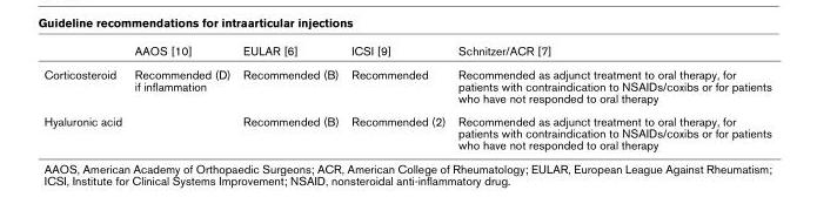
<table><thead><tr><td></td><td>AAOS [10]</td><td>EULAR [6]</td><td>ICSI [9]</td><td>Schnitzer/ACR [7]</td></tr></thead><tbody><tr><td>Corticosteroid</td><td>Recommended (D) if inflammation</td><td>Recommended (B)</td><td>Recommended</td><td>Recommended as adjunct treatment to oral therapy, for patients with contraindication to NSAIDs/coxibs or for patients who have not responded to oral therapy</td></tr><tr><td>Hyaluronic acid</td><td></td><td>Recommended (B)</td><td>Recommended (2)</td><td>Recommended as adjunct treatment to oral therapy, for patients with contraindication to NSAIDs/coxibs or for patients who have not responded to oral therapy</td></tr></tbody></table>